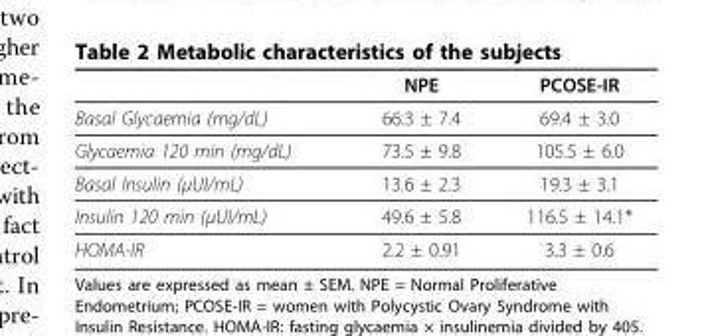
<table><thead><tr><td></td><td>NPE</td><td>PCOSE-IR</td></tr></thead><tbody><tr><td>Basal Glycaemia (mg/dL)</td><td>66.3 ± 7.4</td><td>69.4 ± 3.0</td></tr><tr><td>Glycaemia 120 min (mg/dL)</td><td>73.5 ± 9.8</td><td>105.5 ± 6.0</td></tr><tr><td>Basal Insulin (μUI/mL)</td><td>13.6 ± 2.3</td><td>19.3 ± 3.1</td></tr><tr><td>Insulin 120 min (μUI/mL)</td><td>49.6 ± 5.8</td><td>116.5 ± 14.1*</td></tr><tr><td>HOMA-IR</td><td>2.2 ± 0.91</td><td>3.3 ± 0.6</td></tr></tbody></table>